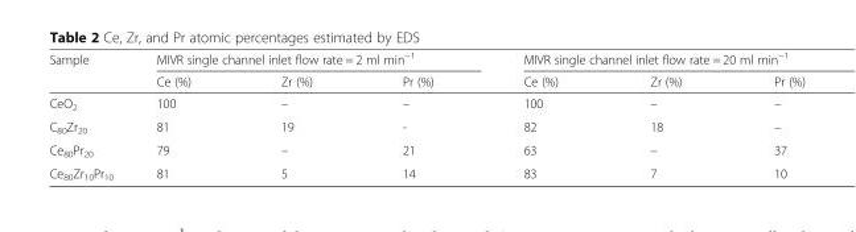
<table><thead><tr><td rowspan="2">Sample</td><td colspan="3">MIVR single channel inlet flow rate = 2 ml min<sup>−1</sup></td><td colspan="3">MIVR single channel inlet flow rate = 20 ml min<sup>−1</sup></td></tr><tr><td>Ce (%)</td><td>Zr (%)</td><td>Pr (%)</td><td>Ce (%)</td><td>Zr (%)</td><td>Pr (%)</td></tr></thead><tbody><tr><td>CeO<sub>2</sub></td><td>100</td><td>–</td><td>–</td><td>100</td><td>–</td><td>–</td></tr><tr><td>C<sub>80</sub>Zr<sub>20</sub></td><td>81</td><td>19</td><td>-</td><td>82</td><td>18</td><td>–</td></tr><tr><td>Ce<sub>80</sub>Pr<sub>20</sub></td><td>79</td><td>–</td><td>21</td><td>63</td><td>–</td><td>37</td></tr><tr><td>Ce<sub>80</sub>Zr<sub>10</sub>Pr<sub>10</sub></td><td>81</td><td>5</td><td>14</td><td>83</td><td>7</td><td>10</td></tr></tbody></table>